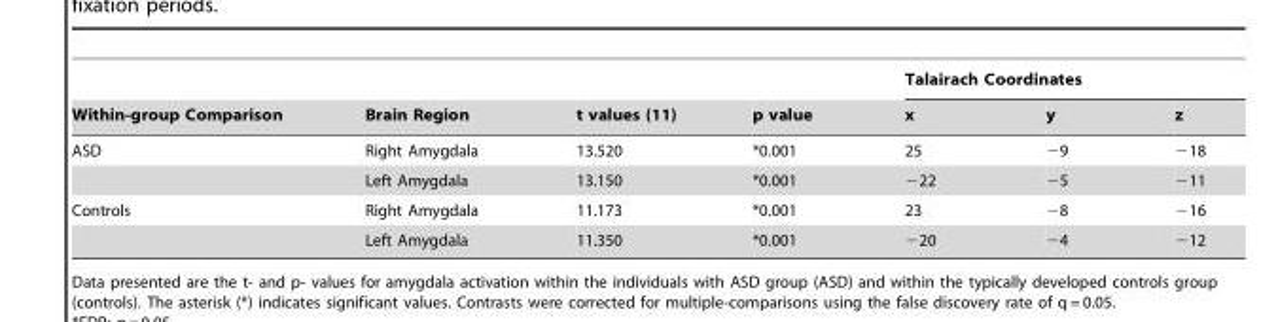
<table><thead><tr><td rowspan="2">Within-group Comparison</td><td rowspan="2">Brain Region</td><td rowspan="2">t values (11)</td><td rowspan="2">p value</td><td colspan="3">Talairach Coordinates</td></tr><tr><td>x</td><td>y</td><td>z</td></tr></thead><tbody><tr><td rowspan="2">ASD</td><td>Right Amygdala</td><td>13.520</td><td>*0.001</td><td>25</td><td>−9</td><td>−18</td></tr><tr><td>Left Amygdala</td><td>13.150</td><td>*0.001</td><td>−22</td><td>−5</td><td>−11</td></tr><tr><td rowspan="2">Controls</td><td>Right Amygdala</td><td>11.173</td><td>*0.001</td><td>23</td><td>−8</td><td>−16</td></tr><tr><td>Left Amygdala</td><td>11.350</td><td>*0.001</td><td>−20</td><td>−4</td><td>−12</td></tr></tbody></table>